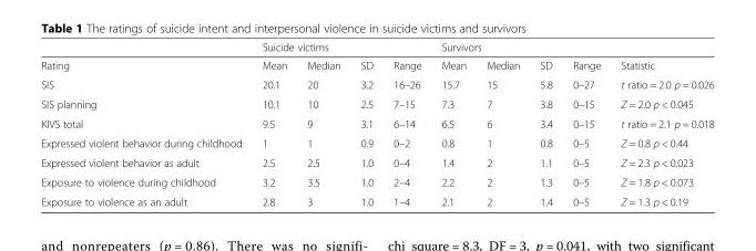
<table><thead><tr><td rowspan="2">Rating</td><td colspan="4">Suicide victims</td><td colspan="4">Survivors</td><td rowspan="2">Statistic</td></tr><tr><td>Mean</td><td>Median</td><td>SD</td><td>Range</td><td>Mean</td><td>Median</td><td>SD</td><td>Range</td></tr></thead><tbody><tr><td>SIS</td><td>20.1</td><td>20</td><td>3.2</td><td>16–26</td><td>15.7</td><td>15</td><td>5.8</td><td>0–27</td><td>t ratio = 2.0 p = 0.026</td></tr><tr><td>SIS planning</td><td>10.1</td><td>10</td><td>2.5</td><td>7–15</td><td>7.3</td><td>7</td><td>3.8</td><td>0–15</td><td>Z = 2.0 p &lt; 0.045</td></tr><tr><td>KIVS total</td><td>9.5</td><td>9</td><td>3.1</td><td>6–14</td><td>6.5</td><td>6</td><td>3.4</td><td>0–15</td><td>t ratio = 2.1 p = 0.018</td></tr><tr><td>Expressed violent behavior during childhood</td><td>1</td><td>1</td><td>0.9</td><td>0–2</td><td>0.8</td><td>1</td><td>0.8</td><td>0–5</td><td>Z = 0.8 p &lt; 0.44</td></tr><tr><td>Expressed violent behavior as adult</td><td>2.5</td><td>2.5</td><td>1.0</td><td>0–4</td><td>1.4</td><td>2</td><td>1.1</td><td>0–5</td><td>Z = 2.3 p &lt; 0.023</td></tr><tr><td>Exposure to violence during childhood</td><td>3.2</td><td>3.5</td><td>1.0</td><td>2–4</td><td>2.2</td><td>2</td><td>1.3</td><td>0–5</td><td>Z = 1.8 p &lt; 0.073</td></tr><tr><td>Exposure to violence as an adult</td><td>2.8</td><td>3</td><td>1.0</td><td>1–4</td><td>2.1</td><td>2</td><td>1.4</td><td>0–5</td><td>Z = 1.3 p &lt; 0.19</td></tr></tbody></table>